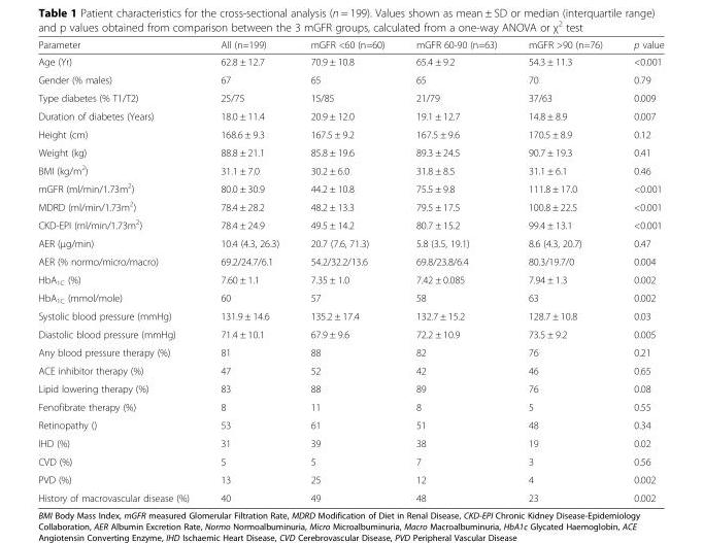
<table><thead><tr><td>Parameter</td><td>All (n=199)</td><td>mGFR &lt;60 (n=60)</td><td>mGFR 60-90 (n=63)</td><td>mGFR &gt;90 (n=76)</td><td>p value</td></tr></thead><tbody><tr><td>Age (Yr)</td><td>62.8 ± 12.7</td><td>70.9 ± 10.8</td><td>65.4 ± 9.2</td><td>54.3 ± 11.3</td><td>&lt;0.001</td></tr><tr><td>Gender (% males)</td><td>67</td><td>65</td><td>65</td><td>70</td><td>0.79</td></tr><tr><td>Type diabetes (% T1/T2)</td><td>25/75</td><td>15/85</td><td>21/79</td><td>37/63</td><td>0.009</td></tr><tr><td>Duration of diabetes (Years)</td><td>18.0 ± 11.4</td><td>20.9 ± 12.0</td><td>19.1 ± 12.7</td><td>14.8 ± 8.9</td><td>0.007</td></tr><tr><td>Height (cm)</td><td>168.6 ± 9.3</td><td>167.5 ± 9.2</td><td>167.5 ± 9.6</td><td>170.5 ± 8.9</td><td>0.12</td></tr><tr><td>Weight (kg)</td><td>88.8 ± 21.1</td><td>85.8 ± 19.6</td><td>89.3 ± 24.5</td><td>90.7 ± 19.3</td><td>0.41</td></tr><tr><td>BMI (kg/m<sup>2</sup>)</td><td>31.1 ± 7.0</td><td>30.2 ± 6.0</td><td>31.8 ± 8.5</td><td>31.1 ± 6.1</td><td>0.46</td></tr><tr><td>mGFR (ml/min/1.73m<sup>2</sup>)</td><td>80.0 ± 30.9</td><td>44.2 ± 10.8</td><td>75.5 ± 9.8</td><td>111.8 ± 17.0</td><td>&lt;0.001</td></tr><tr><td>MDRD (ml/min/1.73m<sup>2</sup>)</td><td>78.4 ± 28.2</td><td>48.2 ± 13.3</td><td>79.5 ± 17.5</td><td>100.8 ± 22.5</td><td>&lt;0.001</td></tr><tr><td>CKD-EPI (ml/min/1.73m<sup>2</sup>)</td><td>78.4 ± 24.9</td><td>49.5 ± 14.2</td><td>80.7 ± 15.2</td><td>99.4 ± 13.1</td><td>&lt;0.001</td></tr><tr><td>AER (μg/min)</td><td>10.4 (4.3, 26.3)</td><td>20.7 (7.6, 71.3)</td><td>5.8 (3.5, 19.1)</td><td>8.6 (4.3, 20.7)</td><td>0.47</td></tr><tr><td>AER (% normo/micro/macro)</td><td>69.2/24.7/6.1</td><td>54.2/32.2/13.6</td><td>69.8/23.8/6.4</td><td>80.3/19.7/0</td><td>0.004</td></tr><tr><td>HbA<sub>1C</sub> (%)</td><td>7.60 ± 1.1</td><td>7.35 ± 1.0</td><td>7.42 ± 0.085</td><td>7.94 ± 1.3</td><td>0.002</td></tr><tr><td>HbA<sub>1C</sub> (mmol/mole)</td><td>60</td><td>57</td><td>58</td><td>63</td><td>0.002</td></tr><tr><td>Systolic blood pressure (mmHg)</td><td>131.9 ± 14.6</td><td>135.2 ± 17.4</td><td>132.7 ± 15.2</td><td>128.7 ± 10.8</td><td>0.03</td></tr><tr><td>Diastolic blood pressure (mmHg)</td><td>71.4 ± 10.1</td><td>67.9 ± 9.6</td><td>72.2 ± 10.9</td><td>73.5 ± 9.2</td><td>0.005</td></tr><tr><td>Any blood pressure therapy (%)</td><td>81</td><td>88</td><td>82</td><td>76</td><td>0.21</td></tr><tr><td>ACE inhibitor therapy (%)</td><td>47</td><td>52</td><td>42</td><td>46</td><td>0.65</td></tr><tr><td>Lipid lowering therapy (%)</td><td>83</td><td>88</td><td>89</td><td>76</td><td>0.08</td></tr><tr><td>Fenofibrate therapy (%)</td><td>8</td><td>11</td><td>8</td><td>5</td><td>0.55</td></tr><tr><td>Retinopathy ()</td><td>53</td><td>61</td><td>51</td><td>48</td><td>0.34</td></tr><tr><td>IHD (%)</td><td>31</td><td>39</td><td>38</td><td>19</td><td>0.02</td></tr><tr><td>CVD (%)</td><td>5</td><td>5</td><td>7</td><td>3</td><td>0.56</td></tr><tr><td>PVD (%)</td><td>13</td><td>25</td><td>12</td><td>4</td><td>0.002</td></tr><tr><td>History of macrovascular disease (%)</td><td>40</td><td>49</td><td>48</td><td>23</td><td>0.002</td></tr></tbody></table>